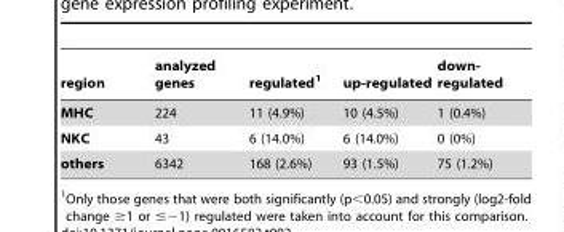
<table><thead><tr><td>region</td><td>analyzed genes</td><td>regulated<sup>1</sup></td><td>up-regulated</td><td>down- regulated</td></tr></thead><tbody><tr><td>MHC</td><td>224</td><td>11 (4.9%)</td><td>10 (4.5%)</td><td>1 (0.4%)</td></tr><tr><td>NKC</td><td>43</td><td>6 (14.0%)</td><td>6 (14.0%)</td><td>0 (0%)</td></tr><tr><td>others</td><td>6342</td><td>168 (2.6%)</td><td>93 (1.5%)</td><td>75 (1.2%)</td></tr></tbody></table>